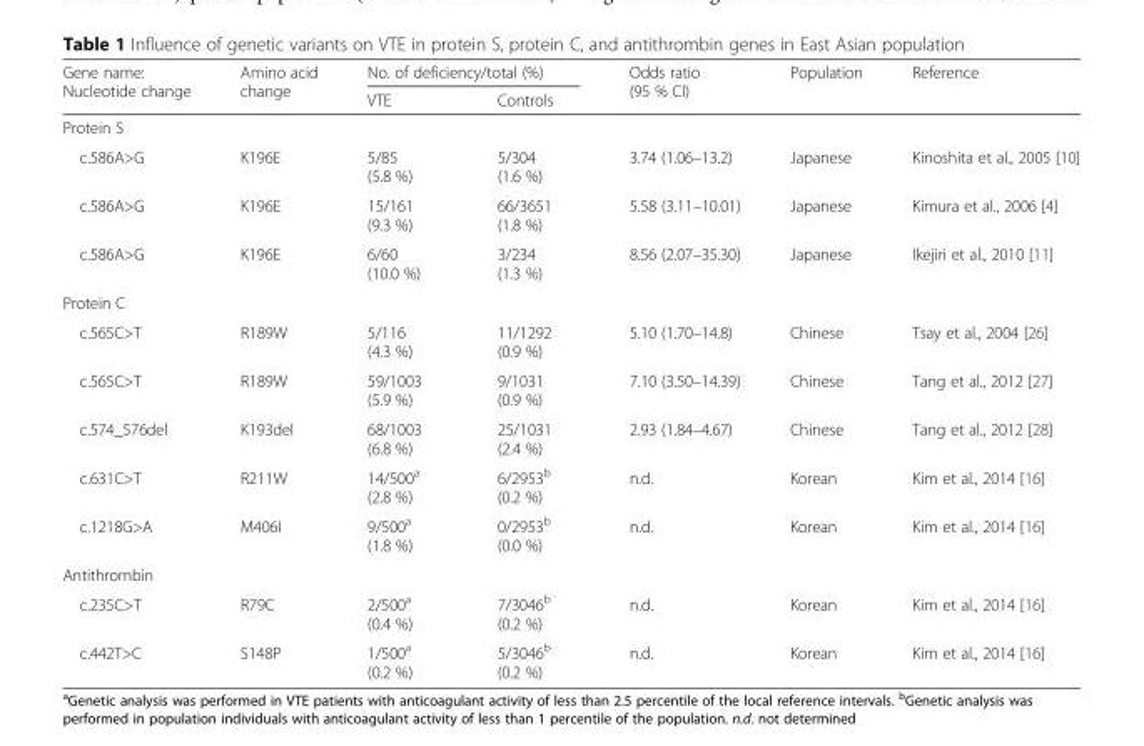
<table><thead><tr><td rowspan="2">Gene name: Nucleotide change</td><td rowspan="2">Amino acid change</td><td colspan="2">No. of deficiency/total (%)</td><td rowspan="2">Odds ratio (95 % CI)</td><td rowspan="2">Population</td><td rowspan="2">Reference</td></tr><tr><td>VTE</td><td>Controls</td></tr></thead><tbody><tr><td colspan="7">Protein S</td></tr><tr><td>c.586A&gt;G</td><td>K196E</td><td>5/85 (5.8 %)</td><td>5/304 (1.6 %)</td><td>3.74 (1.06–13.2)</td><td>Japanese</td><td>Kinoshita et al., 2005 [10]</td></tr><tr><td>c.586A&gt;G</td><td>K196E</td><td>15/161 (9.3 %)</td><td>66/3651 (1.8 %)</td><td>5.58 (3.11–10.01)</td><td>Japanese</td><td>Kimura et al., 2006 [4]</td></tr><tr><td>c.586A&gt;G</td><td>K196E</td><td>6/60 (10.0 %)</td><td>3/234 (1.3 %)</td><td>8.56 (2.07–35.30)</td><td>Japanese</td><td>Ikejiri et al., 2010 [11]</td></tr><tr><td colspan="7">Protein C</td></tr><tr><td>c.565C&gt;T</td><td>R189W</td><td>5/116 (4.3 %)</td><td>11/1292 (0.9 %)</td><td>5.10 (1.70–14.8)</td><td>Chinese</td><td>Tsay et al., 2004 [26]</td></tr><tr><td>c.565C&gt;T</td><td>R189W</td><td>59/1003 (5.9 %)</td><td>9/1031 (0.9 %)</td><td>7.10 (3.50–14.39)</td><td>Chinese</td><td>Tang et al., 2012 [27]</td></tr><tr><td>c.574_576del</td><td>K193del</td><td>68/1003 (6.8 %)</td><td>25/1031 (2.4 %)</td><td>2.93 (1.84–4.67)</td><td>Chinese</td><td>Tang et al., 2012 [28]</td></tr><tr><td>c.631C&gt;T</td><td>R211W</td><td>14/500<sup>a</sup> (2.8 %)</td><td>6/2953<sup>b</sup> (0.2 %)</td><td>n.d.</td><td>Korean</td><td>Kim et al., 2014 [16]</td></tr><tr><td>c.1218G&gt;A</td><td>M406I</td><td>9/500<sup>a</sup> (1.8 %)</td><td>0/2953<sup>b</sup> (0.0 %)</td><td>n.d.</td><td>Korean</td><td>Kim et al., 2014 [16]</td></tr><tr><td colspan="7">Antithrombin</td></tr><tr><td>c.235C&gt;T</td><td>R79C</td><td>2/500<sup>a</sup> (0.4 %)</td><td>7/3046<sup>b</sup> (0.2 %)</td><td>n.d.</td><td>Korean</td><td>Kim et al., 2014 [16]</td></tr><tr><td>c.442T&gt;C</td><td>S148P</td><td>1/500<sup>a</sup> (0.2 %)</td><td>5/3046<sup>b</sup> (0.2 %)</td><td>n.d.</td><td>Korean</td><td>Kim et al., 2014 [16]</td></tr></tbody></table>